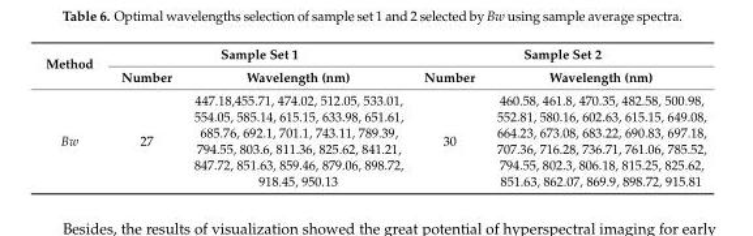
<table><thead><tr><td rowspan="2">Method</td><td colspan="2">Sample Set 1</td><td colspan="2">Sample Set 2</td></tr><tr><td>Number</td><td>Wavelength (nm)</td><td>Number</td><td>Wavelength (nm)</td></tr></thead><tbody><tr><td>Bw</td><td>27</td><td>447.18,455.71, 474.02, 512.05, 533.01, 554.05, 585.14, 615.15, 633.98, 651.61, 685.76, 692.1, 701.1, 743.11, 789.39, 794.55, 803.6, 811.36, 825.62, 841.21, 847.72, 851.63, 859.46, 879.06, 898.72, 918.45, 950.13</td><td>30</td><td>460.58, 461.8, 470.35, 482.58, 500.98, 552.81, 580.16, 602.63, 615.15, 649.08, 664.23, 673.08, 683.22, 690.83, 697.18, 707.36, 716.28, 736.71, 761.06, 785.52, 794.55, 802.3, 806.18, 815.25, 825.62, 851.63, 862.07, 869.9, 898.72, 915.81</td></tr></tbody></table>